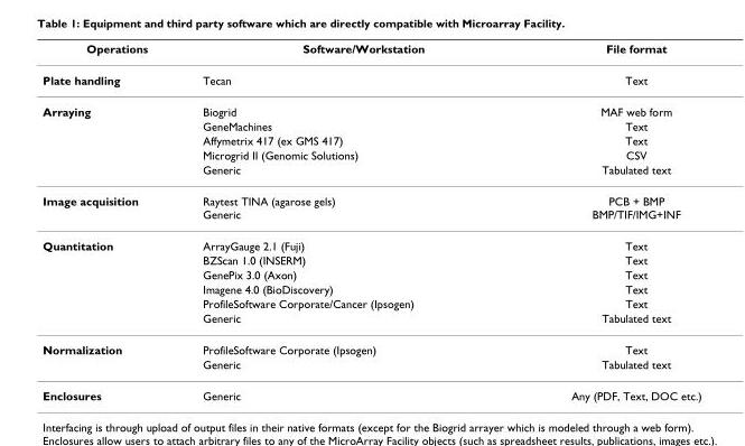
<table><thead><tr><td>Operations</td><td>Software/Workstation</td><td>File format</td></tr></thead><tbody><tr><td>Plate handling</td><td>Tecan</td><td>Text</td></tr><tr><td rowspan="5">Arraying</td><td>Biogrid</td><td>MAF web form</td></tr><tr><td>GeneMachines</td><td>Text</td></tr><tr><td>Affymetrix 417 (ex GMS 417)</td><td>Text</td></tr><tr><td>Microgrid II (Genomic Solutions)</td><td>CSV</td></tr><tr><td>Generic</td><td>Tabulated text</td></tr><tr><td>Image acquisition</td><td>Raytest TINA (agarose gels) Generic</td><td>PCB + BMP BMP/TIF/IMG+INF</td></tr><tr><td rowspan="6">Quantitation</td><td>ArrayGauge 2.1 (Fuji)</td><td>Text</td></tr><tr><td>BZScan 1.0 (INSERM)</td><td>Text</td></tr><tr><td>GenePix 3.0 (Axon)</td><td>Text</td></tr><tr><td>Imagene 4.0 (BioDiscovery)</td><td>Text</td></tr><tr><td>ProfileSoftware Corporate/Cancer (Ipsogen)</td><td>Text</td></tr><tr><td>Generic</td><td>Tabulated text</td></tr><tr><td rowspan="2">Normalization</td><td>ProfileSoftware Corporate (Ipsogen)</td><td>Text</td></tr><tr><td>Generic</td><td>Tabulated text</td></tr><tr><td>Enclosures</td><td>Generic</td><td>Any (PDF, Text, DOC etc.)</td></tr></tbody></table>